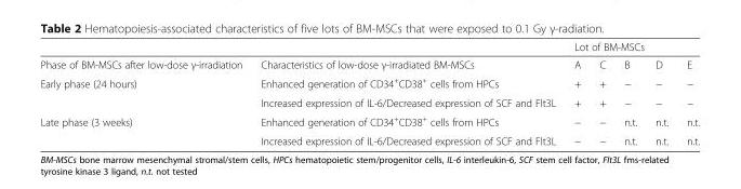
<table><thead><tr><td rowspan="2">Phase of BM-MSCs after low-dose γ-irradiation</td><td rowspan="2">Characteristics of low-dose γ-irradiated BM-MSCs</td><td colspan="5">Lot of BM-MSCs</td></tr><tr><td>A</td><td>C</td><td>B</td><td>D</td><td>E</td></tr></thead><tbody><tr><td rowspan="2">Early phase (24 hours)</td><td>Enhanced generation of CD34<sup>+</sup>CD38<sup>+</sup> cells from HPCs</td><td>+</td><td>+</td><td>−</td><td>−</td><td>−</td></tr><tr><td>Increased expression of IL-6/Decreased expression of SCF and Flt3L</td><td>+</td><td>+</td><td>−</td><td>−</td><td>−</td></tr><tr><td rowspan="2">Late phase (3 weeks)</td><td>Enhanced generation of CD34<sup>+</sup>CD38<sup>+</sup> cells from HPCs</td><td>−</td><td>−</td><td>n.t.</td><td>n.t.</td><td>n.t.</td></tr><tr><td>Increased expression of IL-6/Decreased expression of SCF and Flt3L</td><td>−</td><td>−</td><td>n.t.</td><td>n.t.</td><td>n.t.</td></tr></tbody></table>